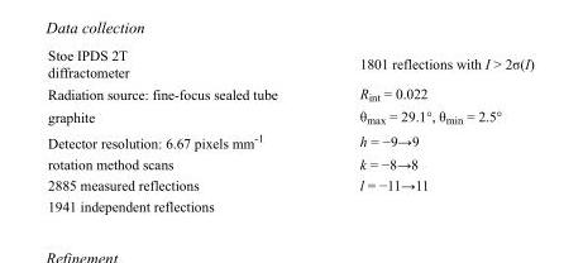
<table><tbody><tr><td>Stoe IPDS 2T diffractometer</td><td>1801 reflections with I &gt; 2σ(I)</td></tr><tr><td>Radiation source: fine-focus sealed tube</td><td>R<sub>int</sub> = 0.022</td></tr><tr><td>graphite</td><td>θ<sub>max</sub> = 29.1°, θ<sub>min</sub> = 2.5°</td></tr><tr><td>Detector resolution: 6.67 pixels mm<sup>-1</sup></td><td>h = −9→9</td></tr><tr><td>rotation method scans</td><td>k = −8→8</td></tr><tr><td>2885 measured reflections</td><td>l = −11→11</td></tr><tr><td>1941 independent reflections</td><td></td></tr></tbody></table>